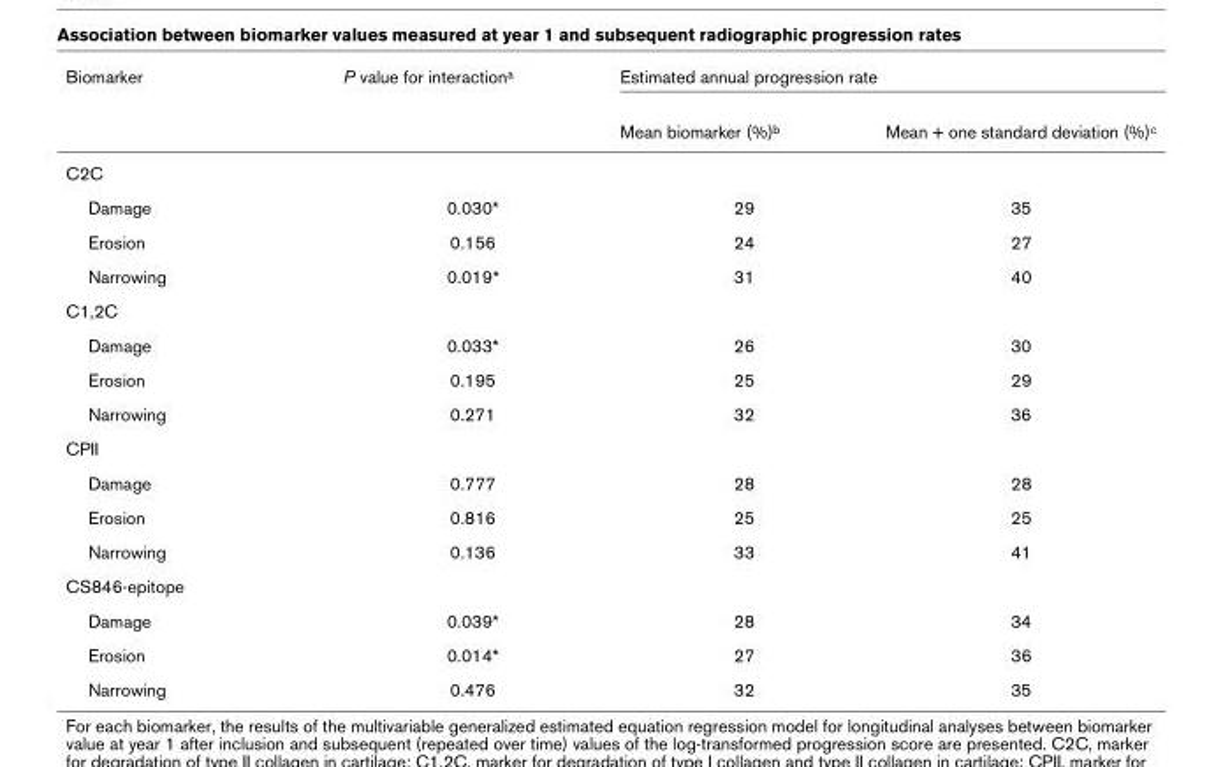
<table><thead><tr><td rowspan="2">Biomarker</td><td rowspan="2">P value for interactiona</td><td colspan="2">Estimated annual progression rate</td></tr><tr><td>Mean biomarker (%)b</td><td>Mean + one standard deviation (%)c</td></tr></thead><tbody><tr><td colspan="4">C2C</td></tr><tr><td>Damage</td><td>0.030*</td><td>29</td><td>35</td></tr><tr><td>Erosion</td><td>0.156</td><td>24</td><td>27</td></tr><tr><td>Narrowing</td><td>0.019*</td><td>31</td><td>40</td></tr><tr><td colspan="4">C1,2C</td></tr><tr><td>Damage</td><td>0.033*</td><td>26</td><td>30</td></tr><tr><td>Erosion</td><td>0.195</td><td>25</td><td>29</td></tr><tr><td>Narrowing</td><td>0.271</td><td>32</td><td>36</td></tr><tr><td colspan="4">CPII</td></tr><tr><td>Damage</td><td>0.777</td><td>28</td><td>28</td></tr><tr><td>Erosion</td><td>0.816</td><td>25</td><td>25</td></tr><tr><td>Narrowing</td><td>0.136</td><td>33</td><td>41</td></tr><tr><td colspan="4">CS846-epitope</td></tr><tr><td>Damage</td><td>0.039*</td><td>28</td><td>34</td></tr><tr><td>Erosion</td><td>0.014*</td><td>27</td><td>36</td></tr><tr><td>Narrowing</td><td>0.476</td><td>32</td><td>35</td></tr></tbody></table>